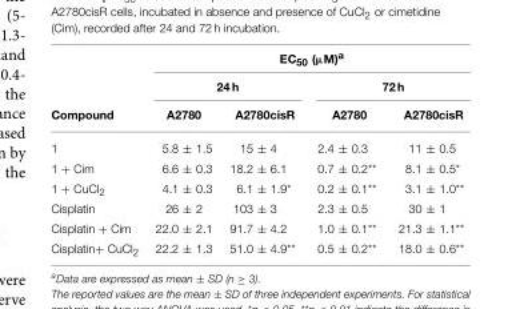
<table><thead><tr><td rowspan="3">Compound</td><td colspan="4">EC<sub>50</sub> (µM)<sup>a</sup></td></tr><tr><td colspan="2">24 h</td><td colspan="2">72 h</td></tr><tr><td>A2780</td><td>A2780cisR</td><td>A2780</td><td>A2780cisR</td></tr></thead><tbody><tr><td>1</td><td>5.8 ± 1.5</td><td>15 ± 4</td><td>2.4 ± 0.3</td><td>11 ± 0.5</td></tr><tr><td>1 + Cim</td><td>6.6 ± 0.3</td><td>18.2 ± 6.1</td><td>0.7 ± 0.2**</td><td>8.1 ± 0.5*</td></tr><tr><td>1 + CuCl<sub>2</sub></td><td>4.1 ± 0.3</td><td>6.1 ± 1.9*</td><td>0.2 ± 0.1**</td><td>3.1 ± 1.0**</td></tr><tr><td>Cisplatin</td><td>26 ± 2</td><td>103 ± 3</td><td>2.3 ± 0.5</td><td>30 ± 1</td></tr><tr><td>Cisplatin + Cim</td><td>22.0 ± 2.1</td><td>91.7 ± 4.2</td><td>1.0 ± 0.1**</td><td>21.3 ± 1.1**</td></tr><tr><td>Cisplatin+ CuCl<sub>2</sub></td><td>22.2 ± 1.3</td><td>51.0 ± 4.9**</td><td>0.5 ± 0.2**</td><td>18.0 ± 0.6**</td></tr></tbody></table>